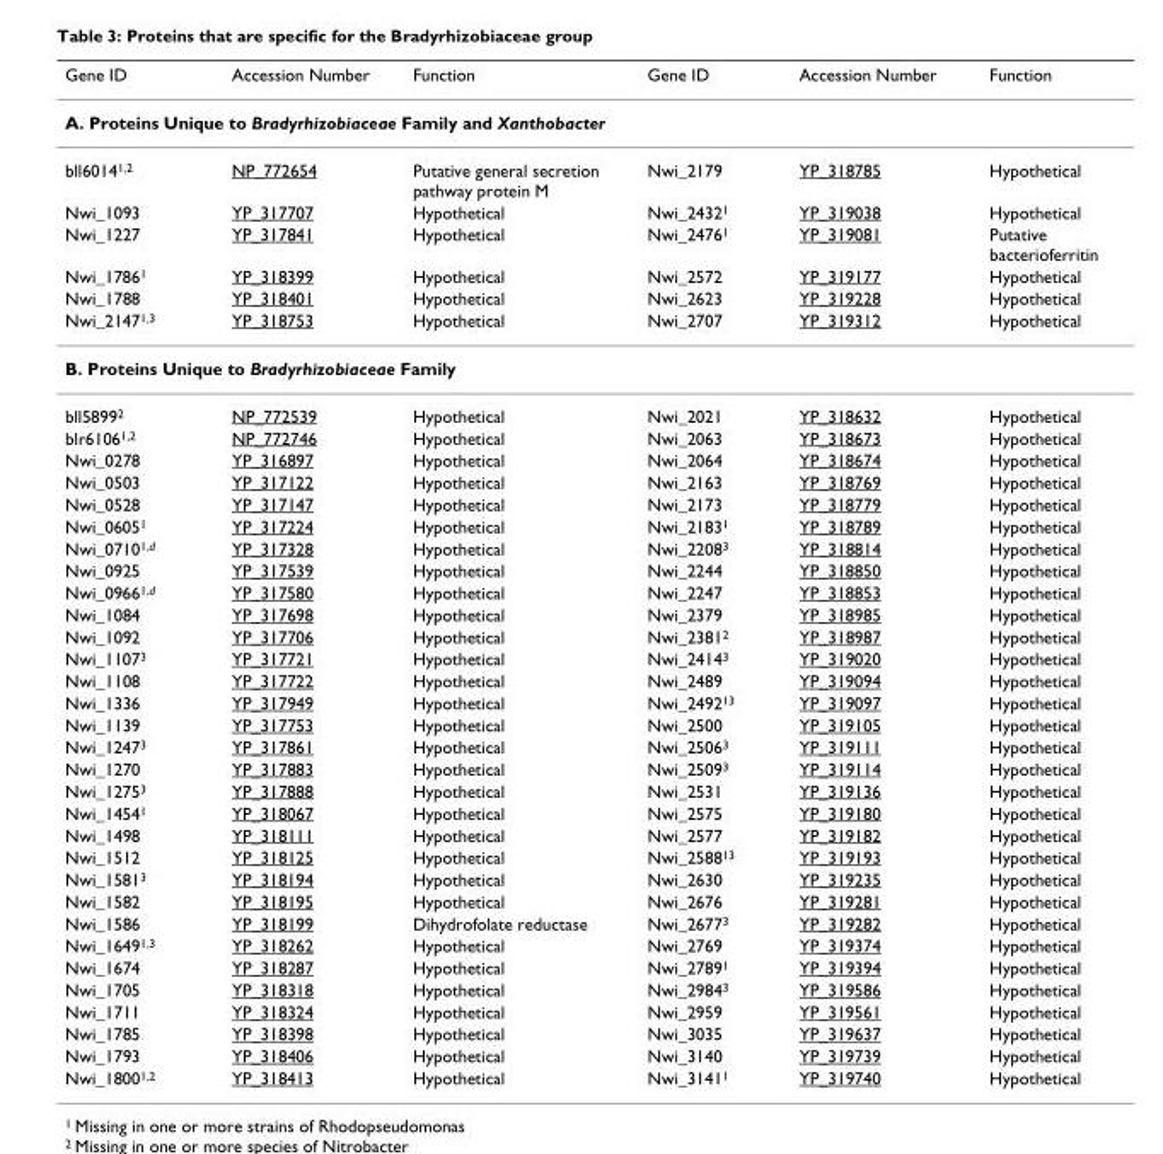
<table><thead><tr><td>Gene ID</td><td>Accession Number</td><td>Function</td><td>Gene ID</td><td>Accession Number</td><td>Function</td></tr></thead><tbody><tr><td colspan="6">A. Proteins Unique to Bradyrhizobiaceae Family and Xanthobacter</td></tr><tr><td>bll6014<sup>1,2</sup></td><td>NP_772654</td><td>Putative general secretion pathway protein M</td><td>Nwi_2179</td><td>YP_318785</td><td>Hypothetical</td></tr><tr><td>Nwi_1093</td><td>YP_317707</td><td>Hypothetical</td><td>Nwi_2432<sup>1</sup></td><td>YP_319038</td><td>Hypothetical</td></tr><tr><td>Nwi_1227</td><td>YP_317841</td><td>Hypothetical</td><td>Nwi_2476<sup>1</sup></td><td>YP_319081</td><td>Putative bacterioferritin</td></tr><tr><td>Nwi_1786<sup>1</sup></td><td>YP_318399</td><td>Hypothetical</td><td>Nwi_2572</td><td>YP_319177</td><td>Hypothetical</td></tr><tr><td>Nwi_1788</td><td>YP_318401</td><td>Hypothetical</td><td>Nwi_2623</td><td>YP_319228</td><td>Hypothetical</td></tr><tr><td>Nwi_2147<sup>1,3</sup></td><td>YP_318753</td><td>Hypothetical</td><td>Nwi_2707</td><td>YP_319312</td><td>Hypothetical</td></tr><tr><td colspan="6">B. Proteins Unique to Bradyrhizobiaceae Family</td></tr><tr><td>bll5899<sup>2</sup></td><td>NP_772539</td><td>Hypothetical</td><td>Nwi_2021</td><td>YP_318632</td><td>Hypothetical</td></tr><tr><td>blr6106<sup>1,2</sup></td><td>NP_772746</td><td>Hypothetical</td><td>Nwi_2063</td><td>YP_318673</td><td>Hypothetical</td></tr><tr><td>Nwi_0278</td><td>YP_316897</td><td>Hypothetical</td><td>Nwi_2064</td><td>YP_318674</td><td>Hypothetical</td></tr><tr><td>Nwi_0503</td><td>YP_317122</td><td>Hypothetical</td><td>Nwi_2163</td><td>YP_318769</td><td>Hypothetical</td></tr><tr><td>Nwi_0528</td><td>YP_317147</td><td>Hypothetical</td><td>Nwi_2173</td><td>YP_318779</td><td>Hypothetical</td></tr><tr><td>Nwi_0605<sup>1</sup></td><td>YP_317224</td><td>Hypothetical</td><td>Nwi_2183<sup>1</sup></td><td>YP_318789</td><td>Hypothetical</td></tr><tr><td>Nwi_0710<sup>1,d</sup></td><td>YP_317328</td><td>Hypothetical</td><td>Nwi_2208<sup>3</sup></td><td>YP_318814</td><td>Hypothetical</td></tr><tr><td>Nwi_0925</td><td>YP_317539</td><td>Hypothetical</td><td>Nwi_2244</td><td>YP_318850</td><td>Hypothetical</td></tr><tr><td>Nwi_0966<sup>1,d</sup></td><td>YP_317580</td><td>Hypothetical</td><td>Nwi_2247</td><td>YP_318853</td><td>Hypothetical</td></tr><tr><td>Nwi_1084</td><td>YP_317698</td><td>Hypothetical</td><td>Nwi_2379</td><td>YP_318985</td><td>Hypothetical</td></tr><tr><td>Nwi_1092</td><td>YP_317706</td><td>Hypothetical</td><td>Nwi_2381<sup>2</sup></td><td>YP_318987</td><td>Hypothetical</td></tr><tr><td>Nwi_1107<sup>3</sup></td><td>YP_317721</td><td>Hypothetical</td><td>Nwi_2414<sup>3</sup></td><td>YP_319020</td><td>Hypothetical</td></tr><tr><td>Nwi_1108</td><td>YP_317722</td><td>Hypothetical</td><td>Nwi_2489</td><td>YP_319094</td><td>Hypothetical</td></tr><tr><td>Nwi_1336</td><td>YP_317949</td><td>Hypothetical</td><td>Nwi_2492<sup>13</sup></td><td>YP_319097</td><td>Hypothetical</td></tr><tr><td>Nwi_1139</td><td>YP_317753</td><td>Hypothetical</td><td>Nwi_2500</td><td>YP_319105</td><td>Hypothetical</td></tr><tr><td>Nwi_1247<sup>3</sup></td><td>YP_317861</td><td>Hypothetical</td><td>Nwi_2506<sup>3</sup></td><td>YP_319111</td><td>Hypothetical</td></tr><tr><td>Nwi_1270</td><td>YP_317883</td><td>Hypothetical</td><td>Nwi_2509<sup>3</sup></td><td>YP_319114</td><td>Hypothetical</td></tr><tr><td>Nwi_1275<sup>3</sup></td><td>YP_317888</td><td>Hypothetical</td><td>Nwi_2531</td><td>YP_319136</td><td>Hypothetical</td></tr><tr><td>Nwi_1454<sup>1</sup></td><td>YP_318067</td><td>Hypothetical</td><td>Nwi_2575</td><td>YP_319180</td><td>Hypothetical</td></tr><tr><td>Nwi_1498</td><td>YP_318111</td><td>Hypothetical</td><td>Nwi_2577</td><td>YP_319182</td><td>Hypothetical</td></tr><tr><td>Nwi_1512</td><td>YP_318125</td><td>Hypothetical</td><td>Nwi_2588<sup>13</sup></td><td>YP_319193</td><td>Hypothetical</td></tr><tr><td>Nwi_1581<sup>3</sup></td><td>YP_318194</td><td>Hypothetical</td><td>Nwi_2630</td><td>YP_319235</td><td>Hypothetical</td></tr><tr><td>Nwi_1582</td><td>YP_318195</td><td>Hypothetical</td><td>Nwi_2676</td><td>YP_319281</td><td>Hypothetical</td></tr><tr><td>Nwi_1586</td><td>YP_318199</td><td>Dihydrofolate reductase</td><td>Nwi_2677<sup>3</sup></td><td>YP_319282</td><td>Hypothetical</td></tr><tr><td>Nwi_1649<sup>1,3</sup></td><td>YP_318262</td><td>Hypothetical</td><td>Nwi_2769</td><td>YP_319374</td><td>Hypothetical</td></tr><tr><td>Nwi_1674</td><td>YP_318287</td><td>Hypothetical</td><td>Nwi_2789<sup>1</sup></td><td>YP_319394</td><td>Hypothetical</td></tr><tr><td>Nwi_1705</td><td>YP_318318</td><td>Hypothetical</td><td>Nwi_2984<sup>3</sup></td><td>YP_319586</td><td>Hypothetical</td></tr><tr><td>Nwi_1711</td><td>YP_318324</td><td>Hypothetical</td><td>Nwi_2959</td><td>YP_319561</td><td>Hypothetical</td></tr><tr><td>Nwi_1785</td><td>YP_318398</td><td>Hypothetical</td><td>Nwi_3035</td><td>YP_319637</td><td>Hypothetical</td></tr><tr><td>Nwi_1793</td><td>YP_318406</td><td>Hypothetical</td><td>Nwi_3140</td><td>YP_319739</td><td>Hypothetical</td></tr><tr><td>Nwi_1800<sup>1,2</sup></td><td>YP_318413</td><td>Hypothetical</td><td>Nwi_3141<sup>1</sup></td><td>YP_319740</td><td>Hypothetical</td></tr></tbody></table>